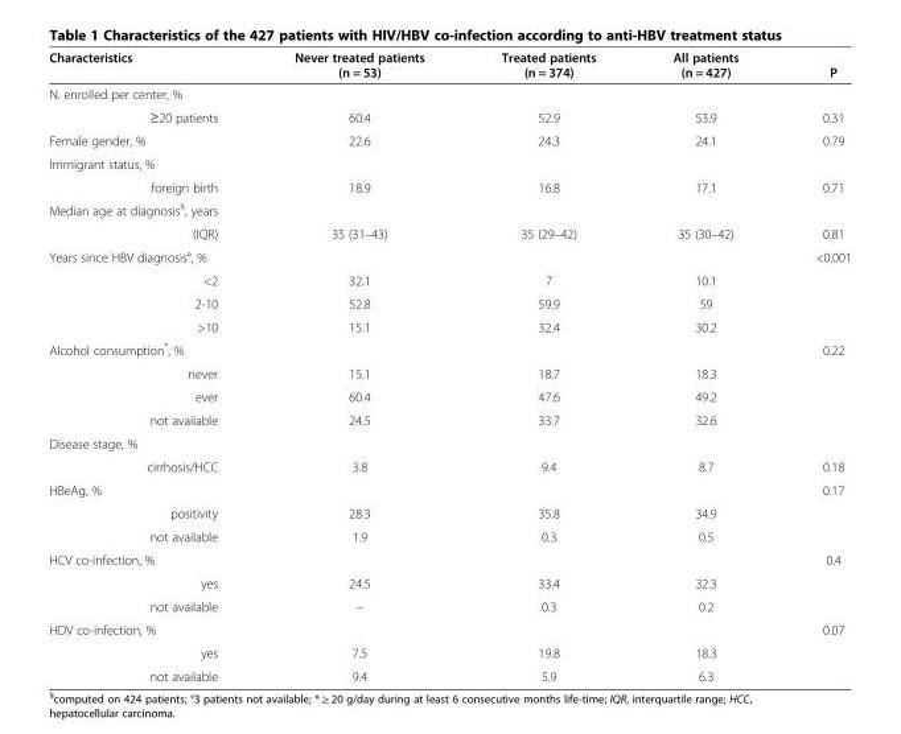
<table><thead><tr><td>Characteristics</td><td>Never treated patients (n = 53)</td><td>Treated patients (n = 374)</td><td>All patients (n = 427)</td><td>P</td></tr></thead><tbody><tr><td colspan="5">N. enrolled per center, %</td></tr><tr><td>≥20 patients</td><td>60.4</td><td>52.9</td><td>53.9</td><td>0.31</td></tr><tr><td>Female gender, %</td><td>22.6</td><td>24.3</td><td>24.1</td><td>0.79</td></tr><tr><td colspan="5">Immigrant status, %</td></tr><tr><td>foreign birth</td><td>18.9</td><td>16.8</td><td>17.1</td><td>0.71</td></tr><tr><td colspan="5">Median age at diagnosis<sup>§</sup>, years</td></tr><tr><td>(IQR)</td><td>35 (31–43)</td><td>35 (29–42)</td><td>35 (30–42)</td><td>0.81</td></tr><tr><td colspan="4">Years since HBV diagnosis°, %</td><td rowspan="4">&lt;0.001</td></tr><tr><td>&lt;2</td><td>32.1</td><td>7</td><td>10.1</td></tr><tr><td>2-10</td><td>52.8</td><td>59.9</td><td>59</td></tr><tr><td>&gt;10</td><td>15.1</td><td>32.4</td><td>30.2</td></tr><tr><td colspan="4">Alcohol consumption*, %</td><td rowspan="4">0.22</td></tr><tr><td>never</td><td>15.1</td><td>18.7</td><td>18.3</td></tr><tr><td>ever</td><td>60.4</td><td>47.6</td><td>49.2</td></tr><tr><td>not available</td><td>24.5</td><td>33.7</td><td>32.6</td></tr><tr><td colspan="5">Disease stage, %</td></tr><tr><td>cirrhosis/HCC</td><td>3.8</td><td>9.4</td><td>8.7</td><td>0.18</td></tr><tr><td colspan="4">HBeAg, %</td><td rowspan="3">0.17</td></tr><tr><td>positivity</td><td>28.3</td><td>35.8</td><td>34.9</td></tr><tr><td>not available</td><td>1.9</td><td>0.3</td><td>0.5</td></tr><tr><td colspan="4">HCV co-infection, %</td><td rowspan="3">0.4</td></tr><tr><td>yes</td><td>24.5</td><td>33.4</td><td>32.3</td></tr><tr><td>not available</td><td>–</td><td>0.3</td><td>0.2</td></tr><tr><td colspan="4">HDV co-infection, %</td><td rowspan="3">0.07</td></tr><tr><td>yes</td><td>7.5</td><td>19.8</td><td>18.3</td></tr><tr><td>not available</td><td>9.4</td><td>5.9</td><td>6.3</td></tr></tbody></table>